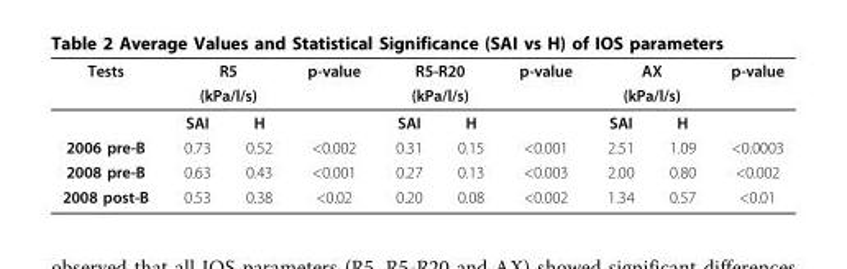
<table><thead><tr><td rowspan="3">Tests</td><td rowspan="2" colspan="2">R5 (kPa/l/s)</td><td rowspan="3">p-value</td><td rowspan="2" colspan="2">R5-R20 (kPa/l/s)</td><td rowspan="3">p-value</td><td rowspan="2" colspan="2">AX (kPa/l/s)</td><td rowspan="3">p-value</td></tr><tr></tr><tr><td>SAI</td><td>H</td><td>SAI</td><td>H</td><td>SAI</td><td>H</td></tr></thead><tbody><tr><td>2006 pre-B</td><td>0.73</td><td>0.52</td><td>&lt;0.002</td><td>0.31</td><td>0.15</td><td>&lt;0.001</td><td>2.51</td><td>1.09</td><td>&lt;0.0003</td></tr><tr><td>2008 pre-B</td><td>0.63</td><td>0.43</td><td>&lt;0.001</td><td>0.27</td><td>0.13</td><td>&lt;0.003</td><td>2.00</td><td>0.80</td><td>&lt;0.002</td></tr><tr><td>2008 post-B</td><td>0.53</td><td>0.38</td><td>&lt;0.02</td><td>0.20</td><td>0.08</td><td>&lt;0.002</td><td>1.34</td><td>0.57</td><td>&lt;0.01</td></tr></tbody></table>